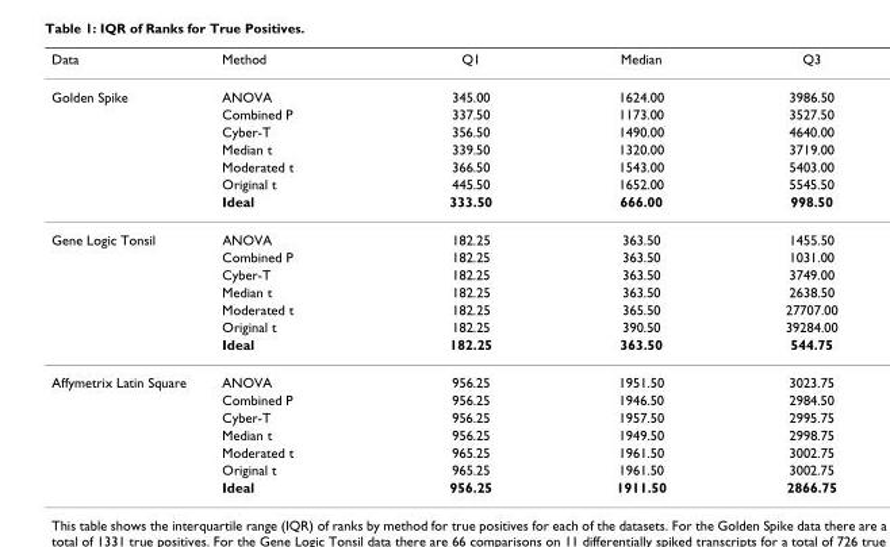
<table><thead><tr><td>Data</td><td>Method</td><td>Q1</td><td>Median</td><td>Q3</td></tr></thead><tbody><tr><td rowspan="7">Golden Spike</td><td>ANOVA</td><td>345.00</td><td>1624.00</td><td>3986.50</td></tr><tr><td>Combined P</td><td>337.50</td><td>1173.00</td><td>3527.50</td></tr><tr><td>Cyber-T</td><td>356.50</td><td>1490.00</td><td>4640.00</td></tr><tr><td>Median t</td><td>339.50</td><td>1320.00</td><td>3719.00</td></tr><tr><td>Moderated t</td><td>366.50</td><td>1543.00</td><td>5403.00</td></tr><tr><td>Original t</td><td>445.50</td><td>1652.00</td><td>5545.50</td></tr><tr><td>Ideal</td><td>333.50</td><td>666.00</td><td>998.50</td></tr><tr><td rowspan="7">Gene Logic Tonsil</td><td>ANOVA</td><td>182.25</td><td>363.50</td><td>1455.50</td></tr><tr><td>Combined P</td><td>182.25</td><td>363.50</td><td>1031.00</td></tr><tr><td>Cyber-T</td><td>182.25</td><td>363.50</td><td>3749.00</td></tr><tr><td>Median t</td><td>182.25</td><td>363.50</td><td>2638.50</td></tr><tr><td>Moderated t</td><td>182.25</td><td>365.50</td><td>27707.00</td></tr><tr><td>Original t</td><td>182.25</td><td>390.50</td><td>39284.00</td></tr><tr><td>Ideal</td><td>182.25</td><td>363.50</td><td>544.75</td></tr><tr><td rowspan="7">Affymetrix Latin Square</td><td>ANOVA</td><td>956.25</td><td>1951.50</td><td>3023.75</td></tr><tr><td>Combined P</td><td>956.25</td><td>1946.50</td><td>2984.50</td></tr><tr><td>Cyber-T</td><td>956.25</td><td>1957.50</td><td>2995.75</td></tr><tr><td>Median t</td><td>956.25</td><td>1949.50</td><td>2998.75</td></tr><tr><td>Moderated t</td><td>965.25</td><td>1961.50</td><td>3002.75</td></tr><tr><td>Original t</td><td>965.25</td><td>1961.50</td><td>3002.75</td></tr><tr><td>Ideal</td><td>956.25</td><td>1911.50</td><td>2866.75</td></tr></tbody></table>